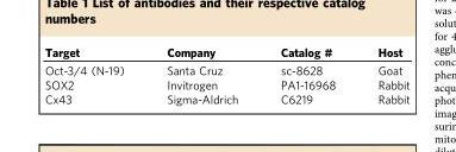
<table><thead><tr><td>Target</td><td>Company</td><td>Catalog #</td><td>Host</td></tr></thead><tbody><tr><td>Oct-3/4 (N-19)</td><td>Santa Cruz</td><td>sc-8628</td><td>Goat</td></tr><tr><td>SOX2</td><td>Invitrogen</td><td>PA1-16968</td><td>Rabbit</td></tr><tr><td>Cx43</td><td>Sigma-Aldrich</td><td>C6219</td><td>Rabbit</td></tr></tbody></table>